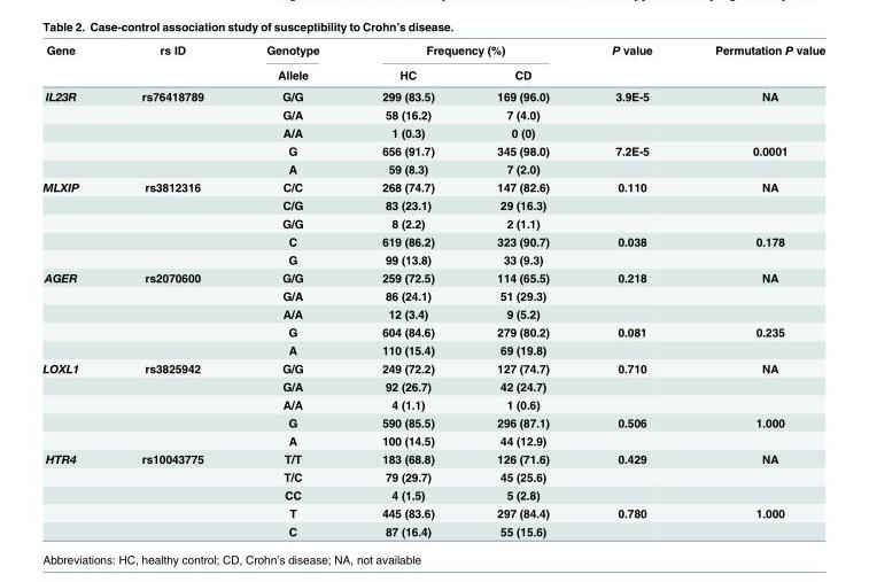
<table><thead><tr><td rowspan="2">Gene</td><td rowspan="2">rs ID</td><td rowspan="2">Genotype Allele</td><td colspan="2">Frequency (%)</td><td rowspan="2">P value</td><td rowspan="2">Permutation P value</td></tr><tr><td>HC</td><td>CD</td></tr></thead><tbody><tr><td rowspan="5">IL23R</td><td>rs76418789</td><td>G/G</td><td>299 (83.5)</td><td>169 (96.0)</td><td>3.9E-5</td><td>NA</td></tr><tr><td></td><td>G/A</td><td>58 (16.2)</td><td>7 (4.0)</td><td></td><td></td></tr><tr><td></td><td>A/A</td><td>1 (0.3)</td><td>0 (0)</td><td></td><td></td></tr><tr><td></td><td>G</td><td>656 (91.7)</td><td>345 (98.0)</td><td>7.2E-5</td><td>0.0001</td></tr><tr><td></td><td>A</td><td>59 (8.3)</td><td>7 (2.0)</td><td></td><td></td></tr><tr><td rowspan="5">MLXIP</td><td>rs3812316</td><td>C/C</td><td>268 (74.7)</td><td>147 (82.6)</td><td>0.110</td><td>NA</td></tr><tr><td></td><td>C/G</td><td>83 (23.1)</td><td>29 (16.3)</td><td></td><td></td></tr><tr><td></td><td>G/G</td><td>8 (2.2)</td><td>2 (1.1)</td><td></td><td></td></tr><tr><td></td><td>C</td><td>619 (86.2)</td><td>323 (90.7)</td><td>0.038</td><td>0.178</td></tr><tr><td></td><td>G</td><td>99 (13.8)</td><td>33 (9.3)</td><td></td><td></td></tr><tr><td rowspan="5">AGER</td><td>rs2070600</td><td>G/G</td><td>259 (72.5)</td><td>114 (65.5)</td><td>0.218</td><td>NA</td></tr><tr><td></td><td>G/A</td><td>86 (24.1)</td><td>51 (29.3)</td><td></td><td></td></tr><tr><td></td><td>A/A</td><td>12 (3.4)</td><td>9 (5.2)</td><td></td><td></td></tr><tr><td></td><td>G</td><td>604 (84.6)</td><td>279 (80.2)</td><td>0.081</td><td>0.235</td></tr><tr><td></td><td>A</td><td>110 (15.4)</td><td>69 (19.8)</td><td></td><td></td></tr><tr><td rowspan="5">LOXL1</td><td>rs3825942</td><td>G/G</td><td>249 (72.2)</td><td>127 (74.7)</td><td>0.710</td><td>NA</td></tr><tr><td></td><td>G/A</td><td>92 (26.7)</td><td>42 (24.7)</td><td></td><td></td></tr><tr><td></td><td>A/A</td><td>4 (1.1)</td><td>1 (0.6)</td><td></td><td></td></tr><tr><td></td><td>G</td><td>590 (85.5)</td><td>296 (87.1)</td><td>0.506</td><td>1.000</td></tr><tr><td></td><td>A</td><td>100 (14.5)</td><td>44 (12.9)</td><td></td><td></td></tr><tr><td rowspan="5">HTR4</td><td>rs10043775</td><td>T/T</td><td>183 (68.8)</td><td>126 (71.6)</td><td>0.429</td><td>NA</td></tr><tr><td></td><td>T/C</td><td>79 (29.7)</td><td>45 (25.6)</td><td></td><td></td></tr><tr><td></td><td>CC</td><td>4 (1.5)</td><td>5 (2.8)</td><td></td><td></td></tr><tr><td></td><td>T</td><td>445 (83.6)</td><td>297 (84.4)</td><td>0.780</td><td>1.000</td></tr><tr><td></td><td>C</td><td>87 (16.4)</td><td>55 (15.6)</td><td></td><td></td></tr></tbody></table>